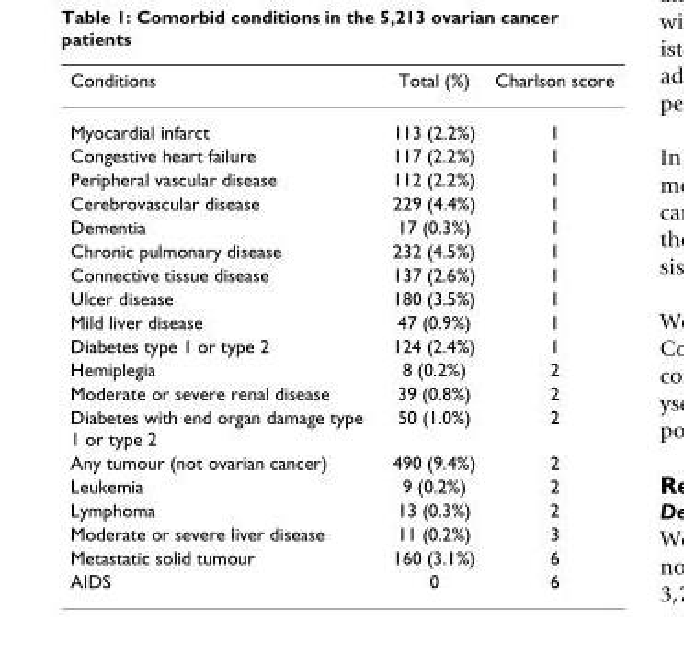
<table><thead><tr><td>Conditions</td><td>Total (%)</td><td>Charlson score</td></tr></thead><tbody><tr><td>Myocardial infarct</td><td>113 (2.2%)</td><td>1</td></tr><tr><td>Congestive heart failure</td><td>117 (2.2%)</td><td>1</td></tr><tr><td>Peripheral vascular disease</td><td>112 (2.2%)</td><td>1</td></tr><tr><td>Cerebrovascular disease</td><td>229 (4.4%)</td><td>1</td></tr><tr><td>Dementia</td><td>17 (0.3%)</td><td>1</td></tr><tr><td>Chronic pulmonary disease</td><td>232 (4.5%)</td><td>1</td></tr><tr><td>Connective tissue disease</td><td>137 (2.6%)</td><td>1</td></tr><tr><td>Ulcer disease</td><td>180 (3.5%)</td><td>1</td></tr><tr><td>Mild liver disease</td><td>47 (0.9%)</td><td>1</td></tr><tr><td>Diabetes type 1 or type 2</td><td>124 (2.4%)</td><td>1</td></tr><tr><td>Hemiplegia</td><td>8 (0.2%)</td><td>2</td></tr><tr><td>Moderate or severe renal disease</td><td>39 (0.8%)</td><td>2</td></tr><tr><td>Diabetes with end organ damage type 1 or type 2</td><td>50 (1.0%)</td><td>2</td></tr><tr><td>Any tumour (not ovarian cancer)</td><td>490 (9.4%)</td><td>2</td></tr><tr><td>Leukemia</td><td>9 (0.2%)</td><td>2</td></tr><tr><td>Lymphoma</td><td>13 (0.3%)</td><td>2</td></tr><tr><td>Moderate or severe liver disease</td><td>11 (0.2%)</td><td>3</td></tr><tr><td>Metastatic solid tumour</td><td>160 (3.1%)</td><td>6</td></tr><tr><td>AIDS</td><td>0</td><td>6</td></tr></tbody></table>